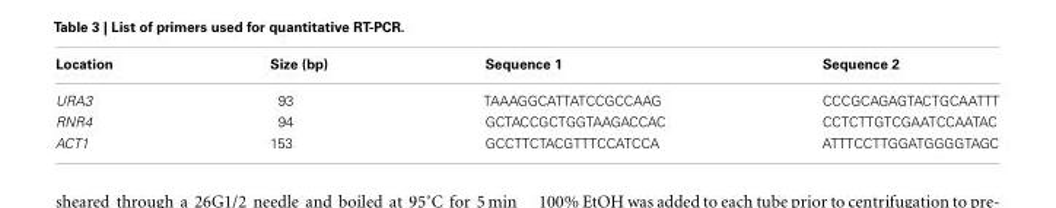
<table><thead><tr><td>Location</td><td>Size (bp)</td><td>Sequence 1</td><td>Sequence 2</td></tr></thead><tbody><tr><td>URA3</td><td>93</td><td>TAAAGGCATTATCCGCCAAG</td><td>CCCGCAGAGTACTGCAATTT</td></tr><tr><td>RNR4</td><td>94</td><td>GCTACCGCTGGTAAGACCAC</td><td>CCTCTTGTCGAATCCAATAC</td></tr><tr><td>ACT1</td><td>153</td><td>GCCTTCTACGTTTCCATCCA</td><td>ATTTCCTTGGATGGGGTAGC</td></tr></tbody></table>